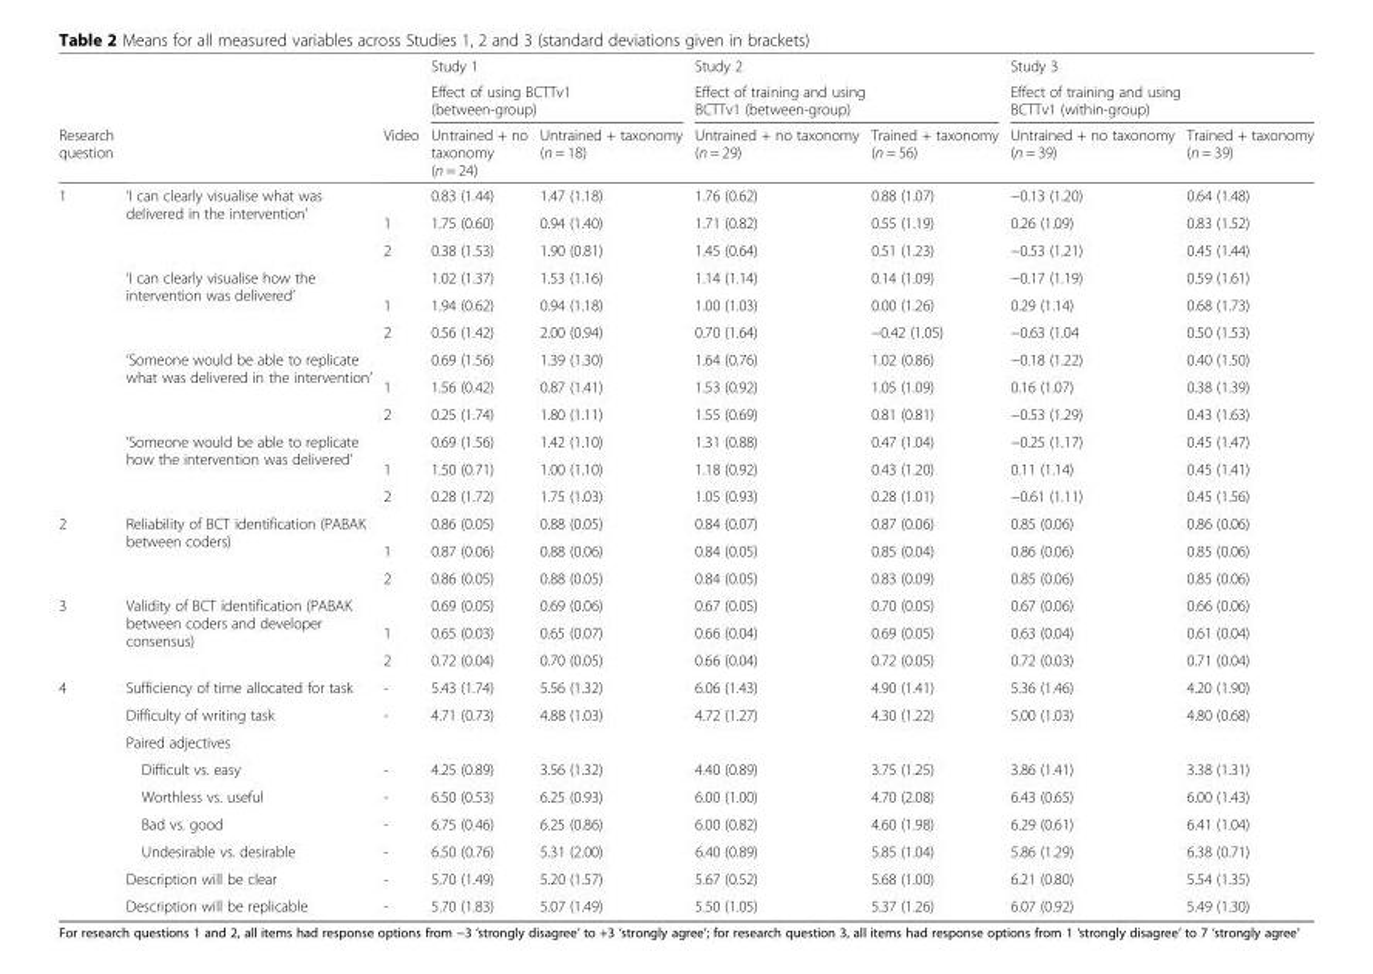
<table><thead><tr><td rowspan="3">Research question</td><td rowspan="3"></td><td rowspan="3">Video</td><td>Study 1</td><td></td><td>Study 2</td><td></td><td>Study 3</td><td></td></tr><tr><td colspan="2">Effect of using BCTTv1 (between-group)</td><td colspan="2">Effect of training and using BCTTv1 (between-group)</td><td colspan="2">Effect of training and using BCTTv1 (within-group)</td></tr><tr><td>Untrained + no taxonomy (n = 24)</td><td>Untrained + taxonomy (n = 18)</td><td>Untrained + no taxonomy (n = 29)</td><td>Trained + taxonomy (n = 56)</td><td>Untrained + no taxonomy (n = 39)</td><td>Trained + taxonomy (n = 39)</td></tr></thead><tbody><tr><td rowspan="12">1</td><td rowspan="3">‘I can clearly visualise what was delivered in the intervention’</td><td></td><td>0.83 (1.44)</td><td>1.47 (1.18)</td><td>1.76 (0.62)</td><td>0.88 (1.07)</td><td>−0.13 (1.20)</td><td>0.64 (1.48)</td></tr><tr><td>1</td><td>1.75 (0.60)</td><td>0.94 (1.40)</td><td>1.71 (0.82)</td><td>0.55 (1.19)</td><td>0.26 (1.09)</td><td>0.83 (1.52)</td></tr><tr><td>2</td><td>0.38 (1.53)</td><td>1.90 (0.81)</td><td>1.45 (0.64)</td><td>0.51 (1.23)</td><td>−0.53 (1.21)</td><td>0.45 (1.44)</td></tr><tr><td rowspan="3">‘I can clearly visualise how the intervention was delivered’</td><td></td><td>1.02 (1.37)</td><td>1.53 (1.16)</td><td>1.14 (1.14)</td><td>0.14 (1.09)</td><td>−0.17 (1.19)</td><td>0.59 (1.61)</td></tr><tr><td>1</td><td>1.94 (0.62)</td><td>0.94 (1.18)</td><td>1.00 (1.03)</td><td>0.00 (1.26)</td><td>0.29 (1.14)</td><td>0.68 (1.73)</td></tr><tr><td>2</td><td>0.56 (1.42)</td><td>2.00 (0.94)</td><td>0.70 (1.64)</td><td>−0.42 (1.05)</td><td>−0.63 (1.04</td><td>0.50 (1.53)</td></tr><tr><td rowspan="3">‘Someone would be able to replicate what was delivered in the intervention’</td><td></td><td>0.69 (1.56)</td><td>1.39 (1.30)</td><td>1.64 (0.76)</td><td>1.02 (0.86)</td><td>−0.18 (1.22)</td><td>0.40 (1.50)</td></tr><tr><td>1</td><td>1.56 (0.42)</td><td>0.87 (1.41)</td><td>1.53 (0.92)</td><td>1.05 (1.09)</td><td>0.16 (1.07)</td><td>0.38 (1.39)</td></tr><tr><td>2</td><td>0.25 (1.74)</td><td>1.80 (1.11)</td><td>1.55 (0.69)</td><td>0.81 (0.81)</td><td>−0.53 (1.29)</td><td>0.43 (1.63)</td></tr><tr><td rowspan="3">‘Someone would be able to replicate how the intervention was delivered’</td><td></td><td>0.69 (1.56)</td><td>1.42 (1.10)</td><td>1.31 (0.88)</td><td>0.47 (1.04)</td><td>−0.25 (1.17)</td><td>0.45 (1.47)</td></tr><tr><td>1</td><td>1.50 (0.71)</td><td>1.00 (1.10)</td><td>1.18 (0.92)</td><td>0.43 (1.20)</td><td>0.11 (1.14)</td><td>0.45 (1.41)</td></tr><tr><td>2</td><td>0.28 (1.72)</td><td>1.75 (1.03)</td><td>1.05 (0.93)</td><td>0.28 (1.01)</td><td>−0.61 (1.11)</td><td>0.45 (1.56)</td></tr><tr><td rowspan="3">2</td><td rowspan="3">Reliability of BCT identification (PABAK between coders)</td><td></td><td>0.86 (0.05)</td><td>0.88 (0.05)</td><td>0.84 (0.07)</td><td>0.87 (0.06)</td><td>0.85 (0.06)</td><td>0.86 (0.06)</td></tr><tr><td>1</td><td>0.87 (0.06)</td><td>0.88 (0.06)</td><td>0.84 (0.05)</td><td>0.85 (0.04)</td><td>0.86 (0.06)</td><td>0.85 (0.06)</td></tr><tr><td>2</td><td>0.86 (0.05)</td><td>0.88 (0.05)</td><td>0.84 (0.05)</td><td>0.83 (0.09)</td><td>0.85 (0.06)</td><td>0.85 (0.06)</td></tr><tr><td rowspan="3">3</td><td rowspan="3">Validity of BCT identification (PABAK between coders and developer consensus)</td><td></td><td>0.69 (0.05)</td><td>0.69 (0.06)</td><td>0.67 (0.05)</td><td>0.70 (0.05)</td><td>0.67 (0.06)</td><td>0.66 (0.06)</td></tr><tr><td>1</td><td>0.65 (0.03)</td><td>0.65 (0.07)</td><td>0.66 (0.04)</td><td>0.69 (0.05)</td><td>0.63 (0.04)</td><td>0.61 (0.04)</td></tr><tr><td>2</td><td>0.72 (0.04)</td><td>0.70 (0.05)</td><td>0.66 (0.04)</td><td>0.72 (0.05)</td><td>0.72 (0.03)</td><td>0.71 (0.04)</td></tr><tr><td rowspan="9">4</td><td>Sufficiency of time allocated for task</td><td>-</td><td>5.43 (1.74)</td><td>5.56 (1.32)</td><td>6.06 (1.43)</td><td>4.90 (1.41)</td><td>5.36 (1.46)</td><td>4.20 (1.90)</td></tr><tr><td>Difficulty of writing task</td><td>-</td><td>4.71 (0.73)</td><td>4.88 (1.03)</td><td>4.72 (1.27)</td><td>4.30 (1.22)</td><td>5.00 (1.03)</td><td>4.80 (0.68)</td></tr><tr><td colspan="8">Paired adjectives</td></tr><tr><td>Difficult vs. easy</td><td>-</td><td>4.25 (0.89)</td><td>3.56 (1.32)</td><td>4.40 (0.89)</td><td>3.75 (1.25)</td><td>3.86 (1.41)</td><td>3.38 (1.31)</td></tr><tr><td>Worthless vs. useful</td><td>-</td><td>6.50 (0.53)</td><td>6.25 (0.93)</td><td>6.00 (1.00)</td><td>4.70 (2.08)</td><td>6.43 (0.65)</td><td>6.00 (1.43)</td></tr><tr><td>Bad vs. good</td><td>-</td><td>6.75 (0.46)</td><td>6.25 (0.86)</td><td>6.00 (0.82)</td><td>4.60 (1.98)</td><td>6.29 (0.61)</td><td>6.41 (1.04)</td></tr><tr><td>Undesirable vs. desirable</td><td>-</td><td>6.50 (0.76)</td><td>5.31 (2.00)</td><td>6.40 (0.89)</td><td>5.85 (1.04)</td><td>5.86 (1.29)</td><td>6.38 (0.71)</td></tr><tr><td>Description will be clear</td><td>-</td><td>5.70 (1.49)</td><td>5.20 (1.57)</td><td>5.67 (0.52)</td><td>5.68 (1.00)</td><td>6.21 (0.80)</td><td>5.54 (1.35)</td></tr><tr><td>Description will be replicable</td><td>-</td><td>5.70 (1.83)</td><td>5.07 (1.49)</td><td>5.50 (1.05)</td><td>5.37 (1.26)</td><td>6.07 (0.92)</td><td>5.49 (1.30)</td></tr></tbody></table>